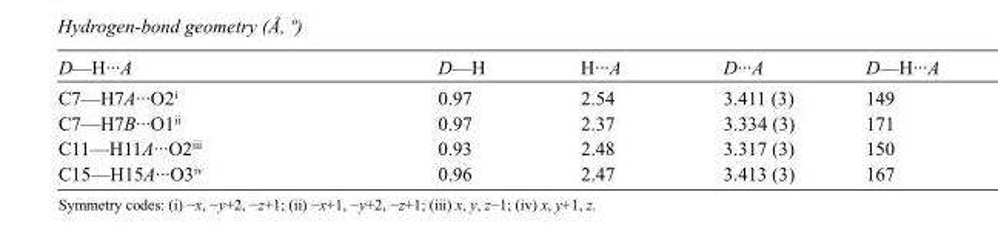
<table><tbody><tr><td>D—H···A</td><td>D—H</td><td>H···A</td><td>D···A</td><td>D—H···A</td></tr><tr><td>C7—H7A···O2<sup>i</sup></td><td>0.97</td><td>2.54</td><td>3.411 (3)</td><td>149</td></tr><tr><td>C7—H7B···O1<sup>ii</sup></td><td>0.97</td><td>2.37</td><td>3.334 (3)</td><td>171</td></tr><tr><td>C11—H11A···O2<sup>iii</sup></td><td>0.93</td><td>2.48</td><td>3.317 (3)</td><td>150</td></tr><tr><td>C15—H15A···O3<sup>iv</sup></td><td>0.96</td><td>2.47</td><td>3.413 (3)</td><td>167</td></tr></tbody></table>